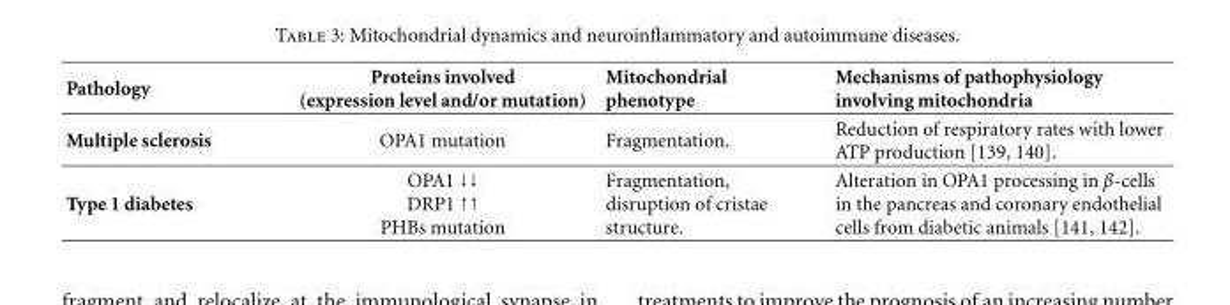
<table><thead><tr><td>Pathology</td><td>Proteins involved (expression level and/or mutation)</td><td>Mitochondrial phenotype</td><td>Mechanisms of pathophysiology involving mitochondria</td></tr></thead><tbody><tr><td>Multiple sclerosis</td><td>OPA1 mutation</td><td>Fragmentation.</td><td>Reduction of respiratory rates with lower ATP production [139, 140].</td></tr><tr><td>Type 1 diabetes</td><td>OPA1 ↓↓ DRP1 ↑↑ PHBs mutation</td><td>Fragmentation, disruption of cristae structure.</td><td>Alteration in OPA1 processing in β-cells in the pancreas and coronary endothelial cells from diabetic animals [141, 142].</td></tr></tbody></table>